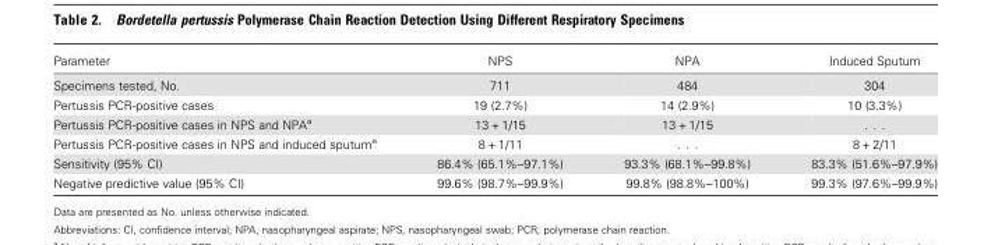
<table><thead><tr><td>Parameter</td><td>NPS</td><td>NPA</td><td>Induced Sputum</td></tr></thead><tbody><tr><td>Specimens tested, No.</td><td>711</td><td>484</td><td>304</td></tr><tr><td>Pertussis PCR-positive cases</td><td>19 (2.7%)</td><td>14 (2.9%)</td><td>10 (3.3%)</td></tr><tr><td>Pertussis PCR-positive cases in NPS and NPA<sup>a</sup></td><td>13 + 1/15</td><td>13 + 1/15</td><td>. . .</td></tr><tr><td>Pertussis PCR-positive cases in NPS and induced sputum<sup>a</sup></td><td>8 + 1/11</td><td>. . .</td><td>8 + 2/11</td></tr><tr><td>Sensitivity (95% CI)</td><td>86.4% (65.1%–97.1%)</td><td>93.3% (68.1%–99.8%)</td><td>83.3% (51.6%–97.9%)</td></tr><tr><td>Negative predictive value (95% CI)</td><td>99.6% (98.7%–99.9%)</td><td>99.8% (98.8%–100%)</td><td>99.3% (97.6%–99.9%)</td></tr></tbody></table>